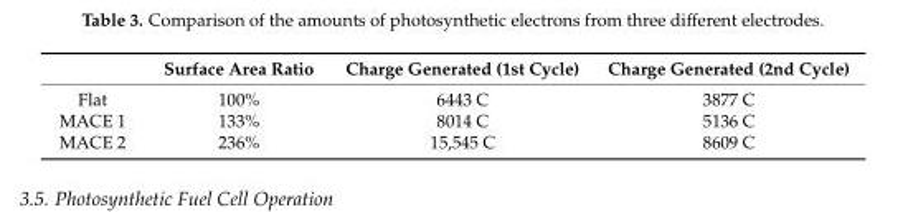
<table><thead><tr><td></td><td>Surface Area Ratio</td><td>Charge Generated (1st Cycle)</td><td>Charge Generated (2nd Cycle)</td></tr></thead><tbody><tr><td>Flat</td><td>100%</td><td>6443 C</td><td>3877 C</td></tr><tr><td>MACE 1</td><td>133%</td><td>8014 C</td><td>5136 C</td></tr><tr><td>MACE 2</td><td>236%</td><td>15,545 C</td><td>8609 C</td></tr></tbody></table>